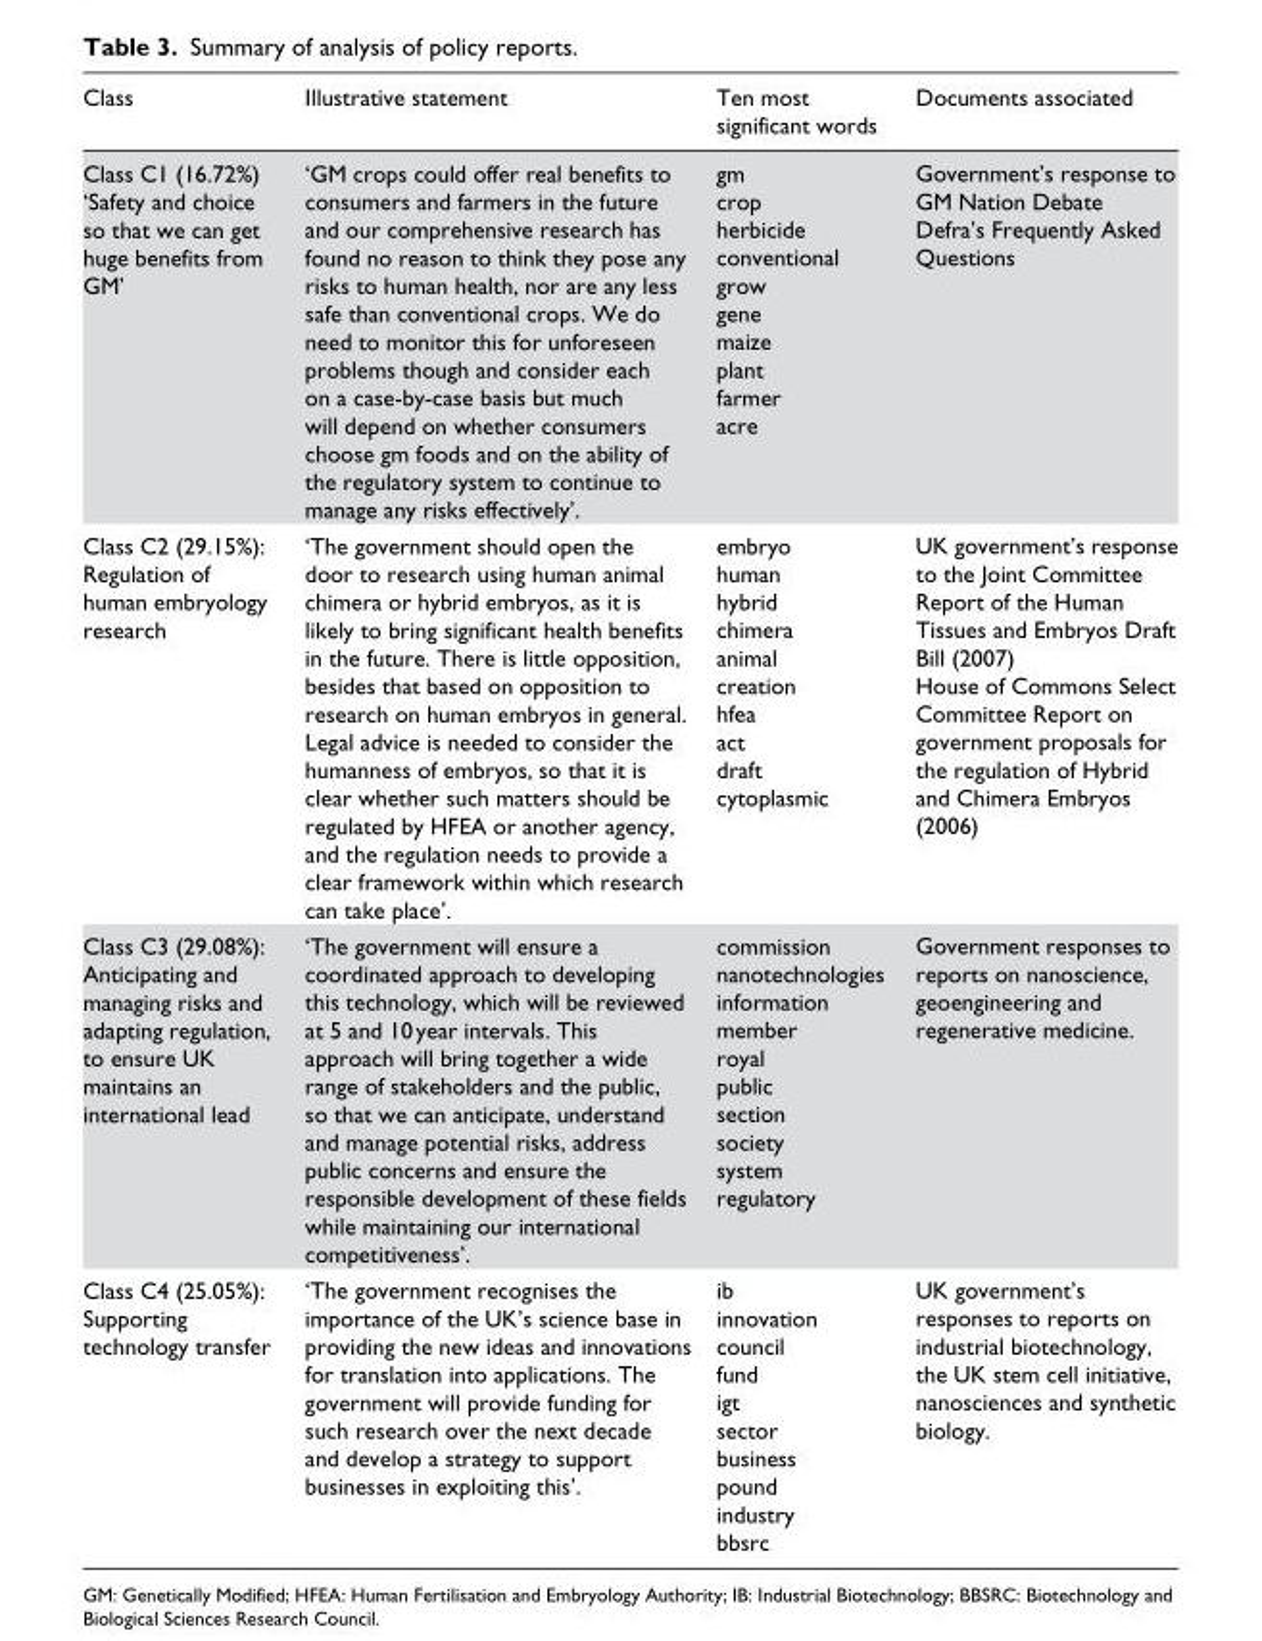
<table><thead><tr><td>Class</td><td>Illustrative statement</td><td>Ten most significant words</td><td>Documents associated</td></tr></thead><tbody><tr><td>Class C1 (16.72%) ‘Safety and choice so that we can get huge benefits from GM’</td><td>‘GM crops could offer real benefits to consumers and farmers in the future and our comprehensive research has found no reason to think they pose any risks to human health, nor are any less safe than conventional crops. We do need to monitor this for unforeseen problems though and consider each on a case-by-case basis but much will depend on whether consumers choose gm foods and on the ability of the regulatory system to continue to manage any risks effectively’.</td><td>gm crop herbicide conventional grow gene maize plant farmer acre</td><td>Government’s response to GM Nation Debate Defra’s Frequently Asked Questions</td></tr><tr><td>Class C2 (29.15%): Regulation of human embryology research</td><td>‘The government should open the door to research using human animal chimera or hybrid embryos, as it is likely to bring significant health benefits in the future. There is little opposition, besides that based on opposition to research on human embryos in general. Legal advice is needed to consider the humanness of embryos, so that it is clear whether such matters should be regulated by HFEA or another agency, and the regulation needs to provide a clear framework within which research can take place’.</td><td>embryo human hybrid chimera animal creation hfea act draft cytoplasmic</td><td>UK government’s response to the Joint Committee Report of the Human Tissues and Embryos Draft Bill (2007) House of Commons Select Committee Report on government proposals for the regulation of Hybrid and Chimera Embryos (2006)</td></tr><tr><td>Class C3 (29.08%): Anticipating and managing risks and adapting regulation, to ensure UK maintains an international lead</td><td>‘The government will ensure a coordinated approach to developing this technology, which will be reviewed at 5 and 10 year intervals. This approach will bring together a wide range of stakeholders and the public, so that we can anticipate, understand and manage potential risks, address public concerns and ensure the responsible development of these fields while maintaining our international competitiveness’.</td><td>commission nanotechnologies information member royal public section society system regulatory</td><td>Government responses to reports on nanoscience, geoengineering and regenerative medicine.</td></tr><tr><td>Class C4 (25.05%): Supporting technology transfer</td><td>‘The government recognises the importance of the UK’s science base in providing the new ideas and innovations for translation into applications. The government will provide funding for such research over the next decade and develop a strategy to support businesses in exploiting this’.</td><td>ib innovation council fund igt sector business pound industry bbsrc</td><td>UK government’s responses to reports on industrial biotechnology, the UK stem cell initiative, nanosciences and synthetic biology.</td></tr></tbody></table>